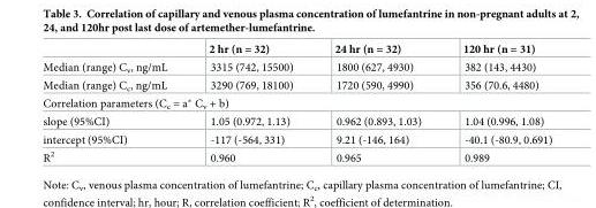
<table><thead><tr><td></td><td>2 hr (n = 32)</td><td>24 hr (n = 32)</td><td>120 hr (n = 31)</td></tr></thead><tbody><tr><td>Median (range) C<sub>v</sub>, ng/mL</td><td>3315 (742, 15500)</td><td>1800 (627, 4930)</td><td>382 (143, 4430)</td></tr><tr><td>Median (range) C<sub>c</sub>, ng/mL</td><td>3290 (769, 18100)</td><td>1720 (590, 4990)</td><td>356 (70.6, 4480)</td></tr><tr><td colspan="4">Correlation parameters (C<sub>c</sub> = a* C<sub>v</sub> + b)</td></tr><tr><td>slope (95%CI)</td><td>1.05 (0.972, 1.13)</td><td>0.962 (0.893, 1.03)</td><td>1.04 (0.996, 1.08)</td></tr><tr><td>intercept (95%CI)</td><td>-117 (-564, 331)</td><td>9.21 (-146, 164)</td><td>-40.1 (-80.9, 0.691)</td></tr><tr><td>R<sup>2</sup></td><td>0.960</td><td>0.965</td><td>0.989</td></tr></tbody></table>